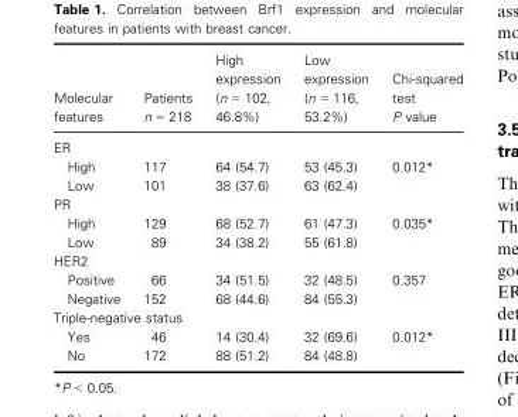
<table><thead><tr><td>Molecular features</td><td>Patients n = 218</td><td>High expression (n = 102, 46.8%)</td><td>Low expression (n = 116, 53.2%)</td><td>Chi-squared test P value</td></tr></thead><tbody><tr><td colspan="5">ER</td></tr><tr><td>High</td><td>117</td><td>64 (54.7)</td><td>53 (45.3)</td><td rowspan="2">0.012*</td></tr><tr><td>Low</td><td>101</td><td>38 (37.6)</td><td>63 (62.4)</td></tr><tr><td colspan="5">PR</td></tr><tr><td>High</td><td>129</td><td>68 (52.7)</td><td>61 (47.3)</td><td rowspan="2">0.035*</td></tr><tr><td>Low</td><td>89</td><td>34 (38.2)</td><td>55 (61.8)</td></tr><tr><td colspan="5">HER2</td></tr><tr><td>Positive</td><td>66</td><td>34 (51.5)</td><td>32 (48.5)</td><td rowspan="2">0.357</td></tr><tr><td>Negative</td><td>152</td><td>68 (44.6)</td><td>84 (55.3)</td></tr><tr><td colspan="5">Triple-negative status</td></tr><tr><td>Yes</td><td>46</td><td>14 (30.4)</td><td>32 (69.6)</td><td rowspan="2">0.012*</td></tr><tr><td>No</td><td>172</td><td>88 (51.2)</td><td>84 (48.8)</td></tr></tbody></table>